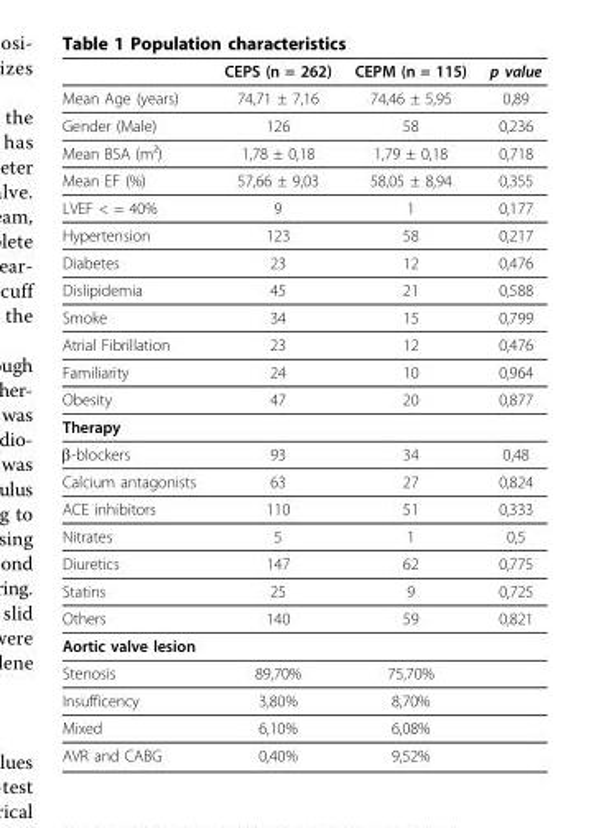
<table><thead><tr><td></td><td>CEPS (n = 262)</td><td>CEPM (n = 115)</td><td>p value</td></tr></thead><tbody><tr><td>Mean Age (years)</td><td>74,71 ± 7,16</td><td>74,46 ± 5,95</td><td>0,89</td></tr><tr><td>Gender (Male)</td><td>126</td><td>58</td><td>0,236</td></tr><tr><td>Mean BSA (m²)</td><td>1,78 ± 0,18</td><td>1,79 ± 0,18</td><td>0,718</td></tr><tr><td>Mean EF (%)</td><td>57,66 ± 9,03</td><td>58,05 ± 8,94</td><td>0,355</td></tr><tr><td>LVEF &lt; = 40%</td><td>9</td><td>1</td><td>0,177</td></tr><tr><td>Hypertension</td><td>123</td><td>58</td><td>0,217</td></tr><tr><td>Diabetes</td><td>23</td><td>12</td><td>0,476</td></tr><tr><td>Dislipidemia</td><td>45</td><td>21</td><td>0,588</td></tr><tr><td>Smoke</td><td>34</td><td>15</td><td>0,799</td></tr><tr><td>Atrial Fibrillation</td><td>23</td><td>12</td><td>0,476</td></tr><tr><td>Familiarity</td><td>24</td><td>10</td><td>0,964</td></tr><tr><td>Obesity</td><td>47</td><td>20</td><td>0,877</td></tr><tr><td colspan="4">Therapy</td></tr><tr><td>β-blockers</td><td>93</td><td>34</td><td>0,48</td></tr><tr><td>Calcium antagonists</td><td>63</td><td>27</td><td>0,824</td></tr><tr><td>ACE inhibitors</td><td>110</td><td>51</td><td>0,333</td></tr><tr><td>Nitrates</td><td>5</td><td>1</td><td>0,5</td></tr><tr><td>Diuretics</td><td>147</td><td>62</td><td>0,775</td></tr><tr><td>Statins</td><td>25</td><td>9</td><td>0,725</td></tr><tr><td>Others</td><td>140</td><td>59</td><td>0,821</td></tr><tr><td colspan="4">Aortic valve lesion</td></tr><tr><td>Stenosis</td><td>89,70%</td><td>75,70%</td><td></td></tr><tr><td>Insufficency</td><td>3,80%</td><td>8,70%</td><td></td></tr><tr><td>Mixed</td><td>6,10%</td><td>6,08%</td><td></td></tr><tr><td>AVR and CABG</td><td>0,40%</td><td>9,52%</td><td></td></tr></tbody></table>